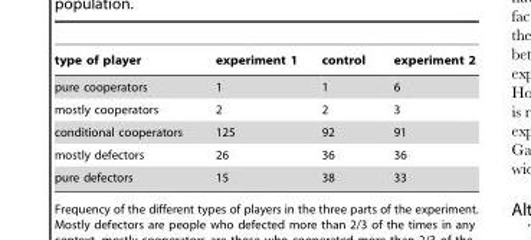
<table><thead><tr><td>type of player</td><td>experiment 1</td><td>control</td><td>experiment 2</td></tr></thead><tbody><tr><td>pure cooperators</td><td>1</td><td>1</td><td>6</td></tr><tr><td>mostly cooperators</td><td>2</td><td>2</td><td>3</td></tr><tr><td>conditional cooperators</td><td>125</td><td>92</td><td>91</td></tr><tr><td>mostly defectors</td><td>26</td><td>36</td><td>36</td></tr><tr><td>pure defectors</td><td>15</td><td>38</td><td>33</td></tr></tbody></table>